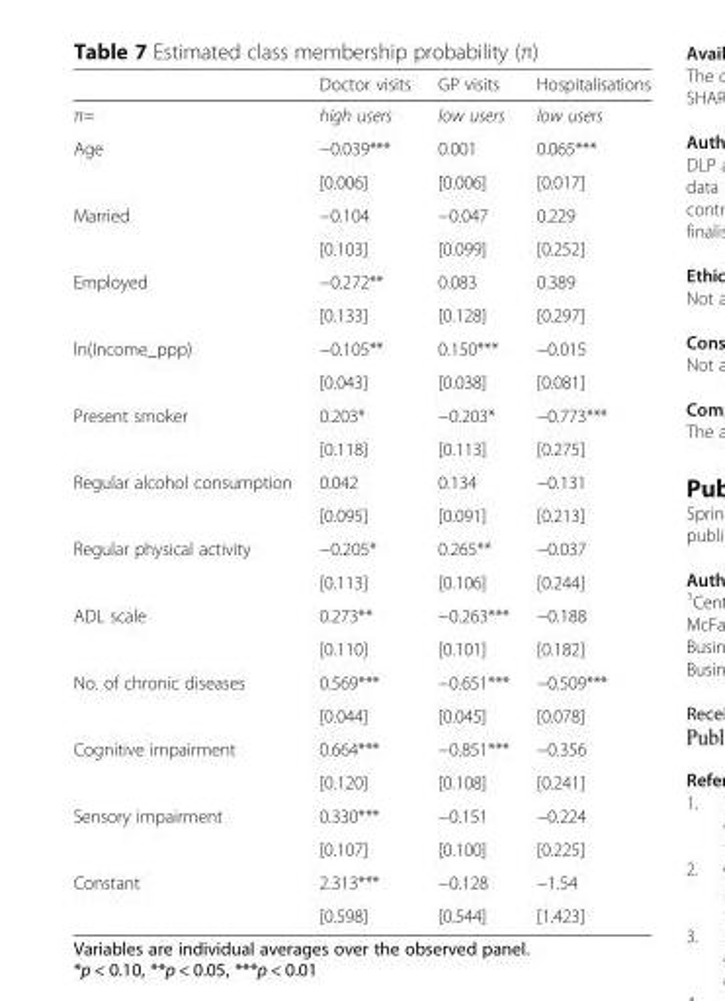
<table><thead><tr><td></td><td>Doctor visits</td><td>GP visits</td><td>Hospitalisations</td></tr></thead><tbody><tr><td>π=</td><td>high users</td><td>low users</td><td>low users</td></tr><tr><td rowspan="2">Age</td><td>−0.039***</td><td>0.001</td><td>0.065***</td></tr><tr><td>[0.006]</td><td>[0.006]</td><td>[0.017]</td></tr><tr><td rowspan="2">Married</td><td>−0.104</td><td>−0.047</td><td>0.229</td></tr><tr><td>[0.103]</td><td>[0.099]</td><td>[0.252]</td></tr><tr><td rowspan="2">Employed</td><td>−0.272**</td><td>0.083</td><td>0.389</td></tr><tr><td>[0.133]</td><td>[0.128]</td><td>[0.297]</td></tr><tr><td rowspan="2">ln(Income_ppp)</td><td>−0.105**</td><td>0.150***</td><td>−0.015</td></tr><tr><td>[0.043]</td><td>[0.038]</td><td>[0.081]</td></tr><tr><td rowspan="2">Present smoker</td><td>0.203*</td><td>−0.203*</td><td>−0.773***</td></tr><tr><td>[0.118]</td><td>[0.113]</td><td>[0.275]</td></tr><tr><td rowspan="2">Regular alcohol consumption</td><td>0.042</td><td>0.134</td><td>−0.131</td></tr><tr><td>[0.095]</td><td>[0.091]</td><td>[0.213]</td></tr><tr><td rowspan="2">Regular physical activity</td><td>−0.205*</td><td>0.265**</td><td>−0.037</td></tr><tr><td>[0.113]</td><td>[0.106]</td><td>[0.244]</td></tr><tr><td rowspan="2">ADL scale</td><td>0.273**</td><td>−0.263***</td><td>−0.188</td></tr><tr><td>[0.110]</td><td>[0.101]</td><td>[0.182]</td></tr><tr><td rowspan="2">No. of chronic diseases</td><td>0.569***</td><td>−0.651***</td><td>−0.509***</td></tr><tr><td>[0.044]</td><td>[0.045]</td><td>[0.078]</td></tr><tr><td rowspan="2">Cognitive impairment</td><td>0.664***</td><td>−0.851***</td><td>−0.356</td></tr><tr><td>[0.120]</td><td>[0.108]</td><td>[0.241]</td></tr><tr><td rowspan="2">Sensory impairment</td><td>0.330***</td><td>−0.151</td><td>−0.224</td></tr><tr><td>[0.107]</td><td>[0.100]</td><td>[0.225]</td></tr><tr><td rowspan="2">Constant</td><td>2.313***</td><td>−0.128</td><td>−1.54</td></tr><tr><td>[0.598]</td><td>[0.544]</td><td>[1.423]</td></tr></tbody></table>